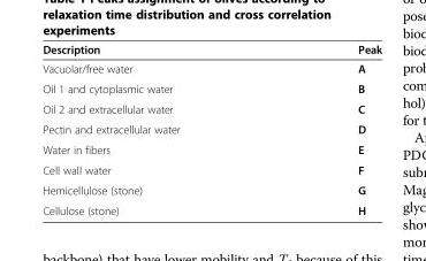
<table><thead><tr><td>Description</td><td>Peak</td></tr></thead><tbody><tr><td>Vacuolar/free water</td><td>A</td></tr><tr><td>Oil 1 and cytoplasmic water</td><td>B</td></tr><tr><td>Oil 2 and extracellular water</td><td>C</td></tr><tr><td>Pectin and extracellular water</td><td>D</td></tr><tr><td>Water in fibers</td><td>E</td></tr><tr><td>Cell wall water</td><td>F</td></tr><tr><td>Hemicellulose (stone)</td><td>G</td></tr><tr><td>Cellulose (stone)</td><td>H</td></tr></tbody></table>